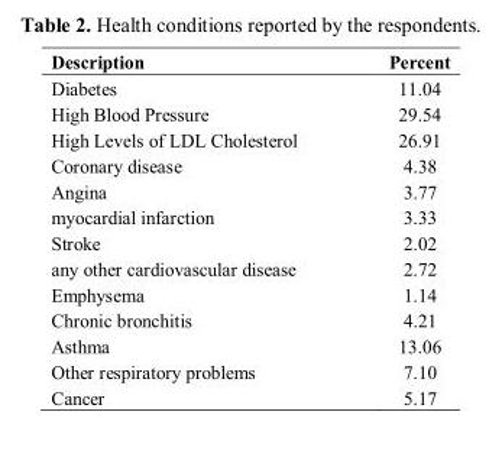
<table><thead><tr><td>Description</td><td>Percent</td></tr></thead><tbody><tr><td>Diabetes</td><td>11.04</td></tr><tr><td>High Blood Pressure</td><td>29.54</td></tr><tr><td>High Levels of LDL Cholesterol</td><td>26.91</td></tr><tr><td>Coronary disease</td><td>4.38</td></tr><tr><td>Angina</td><td>3.77</td></tr><tr><td>myocardial infarction</td><td>3.33</td></tr><tr><td>Stroke</td><td>2.02</td></tr><tr><td>any other cardiovascular disease</td><td>2.72</td></tr><tr><td>Emphysema</td><td>1.14</td></tr><tr><td>Chronic bronchitis</td><td>4.21</td></tr><tr><td>Asthma</td><td>13.06</td></tr><tr><td>Other respiratory problems</td><td>7.10</td></tr><tr><td>Cancer</td><td>5.17</td></tr></tbody></table>